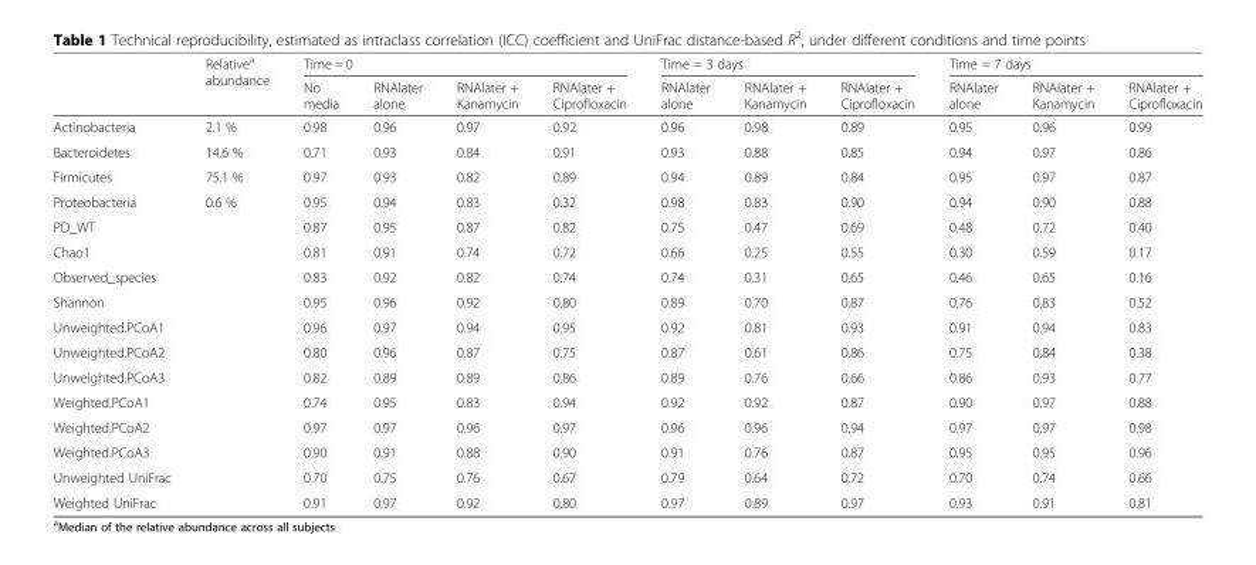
<table><thead><tr><td rowspan="2"></td><td rowspan="2">Relative<sup>a</sup> abundance</td><td colspan="4">Time = 0</td><td colspan="3">Time = 3 days</td><td colspan="3">Time = 7 days</td></tr><tr><td>No media</td><td>RNAlater alone</td><td>RNAlater + Kanamycin</td><td>RNAlater + Ciprofloxacin</td><td>RNAlater alone</td><td>RNAlater + Kanamycin</td><td>RNAlater + Ciprofloxacin</td><td>RNAlater alone</td><td>RNAlater + Kanamycin</td><td>RNAlater + Ciprofloxacin</td></tr></thead><tbody><tr><td>Actinobacteria</td><td>2.1 %</td><td>0.98</td><td>0.96</td><td>0.97</td><td>0.92</td><td>0.96</td><td>0.98</td><td>0.89</td><td>0.95</td><td>0.96</td><td>0.99</td></tr><tr><td>Bacteroidetes</td><td>14.6 %</td><td>0.71</td><td>0.93</td><td>0.84</td><td>0.91</td><td>0.93</td><td>0.88</td><td>0.85</td><td>0.94</td><td>0.97</td><td>0.86</td></tr><tr><td>Firmicutes</td><td>75.1 %</td><td>0.97</td><td>0.93</td><td>0.82</td><td>0.89</td><td>0.94</td><td>0.89</td><td>0.84</td><td>0.95</td><td>0.97</td><td>0.87</td></tr><tr><td>Proteobacteria</td><td>0.6 %</td><td>0.95</td><td>0.94</td><td>0.83</td><td>0.32</td><td>0.98</td><td>0.83</td><td>0.90</td><td>0.94</td><td>0.90</td><td>0.88</td></tr><tr><td>PD_WT</td><td></td><td>0.87</td><td>0.95</td><td>0.87</td><td>0.82</td><td>0.75</td><td>0.47</td><td>0.69</td><td>0.48</td><td>0.72</td><td>0.40</td></tr><tr><td>Chao1</td><td></td><td>0.81</td><td>0.91</td><td>0.74</td><td>0.72</td><td>0.66</td><td>0.25</td><td>0.55</td><td>0.30</td><td>0.59</td><td>0.17</td></tr><tr><td>Observed_species</td><td></td><td>0.83</td><td>0.92</td><td>0.82</td><td>0.74</td><td>0.74</td><td>0.31</td><td>0.65</td><td>0.46</td><td>0.65</td><td>0.16</td></tr><tr><td>Shannon</td><td></td><td>0.95</td><td>0.96</td><td>0.92</td><td>0.80</td><td>0.89</td><td>0.70</td><td>0.87</td><td>0.76</td><td>0.83</td><td>0.52</td></tr><tr><td>Unweighted.PCoA1</td><td></td><td>0.96</td><td>0.97</td><td>0.94</td><td>0.95</td><td>0.92</td><td>0.81</td><td>0.93</td><td>0.91</td><td>0.94</td><td>0.83</td></tr><tr><td>Unweighted.PCoA2</td><td></td><td>0.80</td><td>0.96</td><td>0.87</td><td>0.75</td><td>0.87</td><td>0.61</td><td>0.86</td><td>0.75</td><td>0.84</td><td>0.38</td></tr><tr><td>Unweighted.PCoA3</td><td></td><td>0.82</td><td>0.89</td><td>0.89</td><td>0.86</td><td>0.89</td><td>0.76</td><td>0.66</td><td>0.86</td><td>0.93</td><td>0.77</td></tr><tr><td>Weighted.PCoA1</td><td></td><td>0.74</td><td>0.95</td><td>0.83</td><td>0.94</td><td>0.92</td><td>0.92</td><td>0.87</td><td>0.90</td><td>0.97</td><td>0.88</td></tr><tr><td>Weighted.PCoA2</td><td></td><td>0.97</td><td>0.97</td><td>0.96</td><td>0.97</td><td>0.96</td><td>0.96</td><td>0.94</td><td>0.97</td><td>0.97</td><td>0.98</td></tr><tr><td>Weighted.PCoA3</td><td></td><td>0.90</td><td>0.91</td><td>0.88</td><td>0.90</td><td>0.91</td><td>0.76</td><td>0.87</td><td>0.95</td><td>0.95</td><td>0.96</td></tr><tr><td>Unweighted UniFrac</td><td></td><td>0.70</td><td>0.75</td><td>0.76</td><td>0.67</td><td>0.79</td><td>0.64</td><td>0.72</td><td>0.70</td><td>0.74</td><td>0.66</td></tr><tr><td>Weighted UniFrac</td><td></td><td>0.91</td><td>0.97</td><td>0.92</td><td>0.80</td><td>0.97</td><td>0.89</td><td>0.97</td><td>0.93</td><td>0.91</td><td>0.81</td></tr></tbody></table>